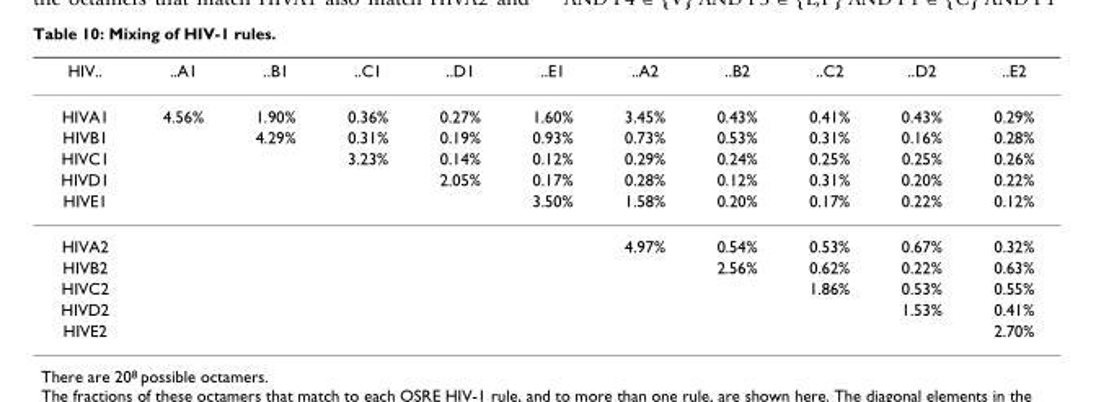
<table><thead><tr><td>HIV..</td><td>..A1</td><td>..B1</td><td>..C1</td><td>..D1</td><td>..E1</td><td>..A2</td><td>..B2</td><td>..C2</td><td>..D2</td><td>..E2</td></tr></thead><tbody><tr><td>HIVA1</td><td>4.56%</td><td>1.90%</td><td>0.36%</td><td>0.27%</td><td>1.60%</td><td>3.45%</td><td>0.43%</td><td>0.41%</td><td>0.43%</td><td>0.29%</td></tr><tr><td>HIVB1</td><td></td><td>4.29%</td><td>0.31%</td><td>0.19%</td><td>0.93%</td><td>0.73%</td><td>0.53%</td><td>0.31%</td><td>0.16%</td><td>0.28%</td></tr><tr><td>HIVC1</td><td></td><td></td><td>3.23%</td><td>0.14%</td><td>0.12%</td><td>0.29%</td><td>0.24%</td><td>0.25%</td><td>0.25%</td><td>0.26%</td></tr><tr><td>HIVD1</td><td></td><td></td><td></td><td>2.05%</td><td>0.17%</td><td>0.28%</td><td>0.12%</td><td>0.31%</td><td>0.20%</td><td>0.22%</td></tr><tr><td>HIVE1</td><td></td><td></td><td></td><td></td><td>3.50%</td><td>1.58%</td><td>0.20%</td><td>0.17%</td><td>0.22%</td><td>0.12%</td></tr><tr><td>HIVA2</td><td></td><td></td><td></td><td></td><td></td><td>4.97%</td><td>0.54%</td><td>0.53%</td><td>0.67%</td><td>0.32%</td></tr><tr><td>HIVB2</td><td></td><td></td><td></td><td></td><td></td><td></td><td>2.56%</td><td>0.62%</td><td>0.22%</td><td>0.63%</td></tr><tr><td>HIVC2</td><td></td><td></td><td></td><td></td><td></td><td></td><td></td><td>1.86%</td><td>0.53%</td><td>0.55%</td></tr><tr><td>HIVD2</td><td></td><td></td><td></td><td></td><td></td><td></td><td></td><td></td><td>1.53%</td><td>0.41%</td></tr><tr><td>HIVE2</td><td></td><td></td><td></td><td></td><td></td><td></td><td></td><td></td><td></td><td>2.70%</td></tr></tbody></table>